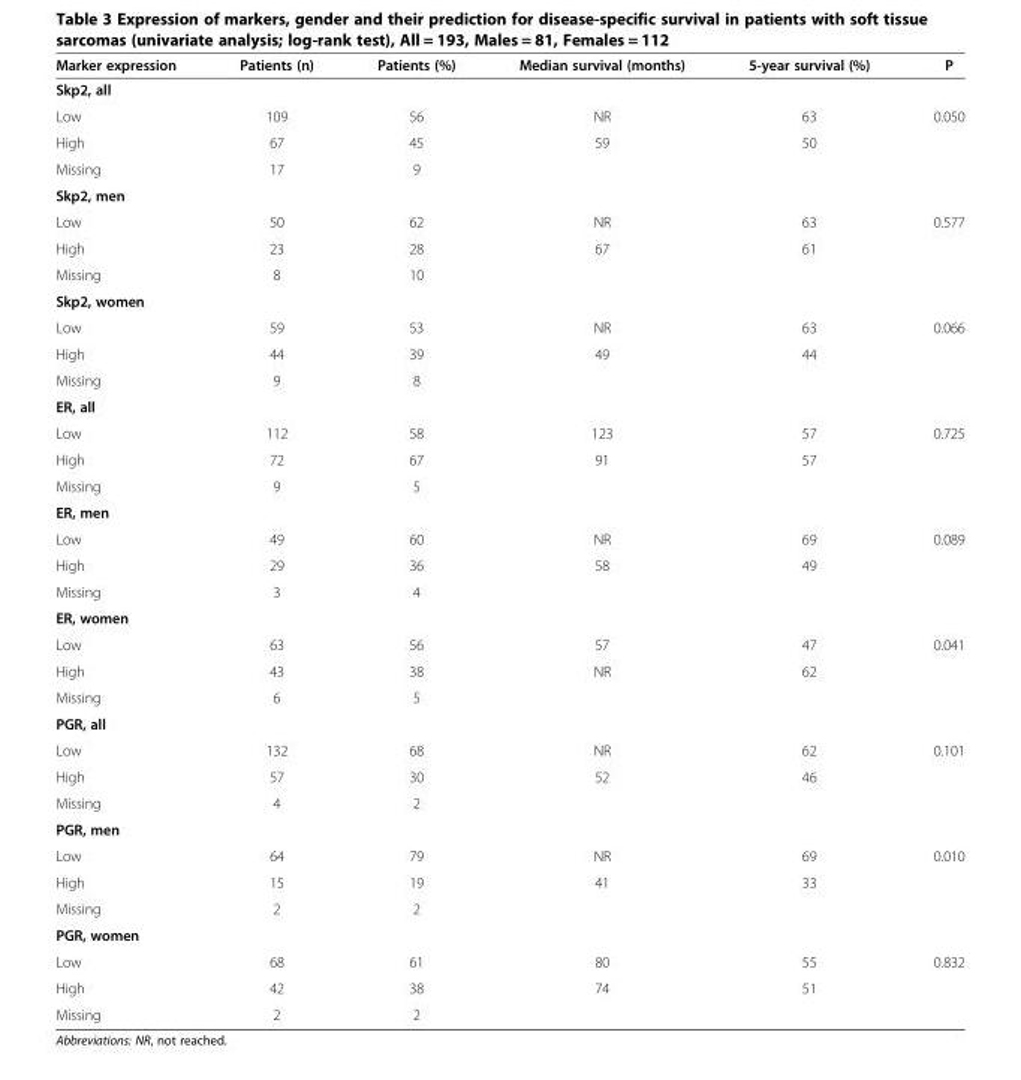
<table><thead><tr><td>Marker expression</td><td>Patients (n)</td><td>Patients (%)</td><td>Median survival (months)</td><td>5-year survival (%)</td><td>P</td></tr></thead><tbody><tr><td colspan="6">Skp2, all</td></tr><tr><td>Low</td><td>109</td><td>56</td><td>NR</td><td>63</td><td>0.050</td></tr><tr><td>High</td><td>67</td><td>45</td><td>59</td><td>50</td><td></td></tr><tr><td>Missing</td><td>17</td><td>9</td><td></td><td></td><td></td></tr><tr><td colspan="6">Skp2, men</td></tr><tr><td>Low</td><td>50</td><td>62</td><td>NR</td><td>63</td><td>0.577</td></tr><tr><td>High</td><td>23</td><td>28</td><td>67</td><td>61</td><td></td></tr><tr><td>Missing</td><td>8</td><td>10</td><td></td><td></td><td></td></tr><tr><td colspan="6">Skp2, women</td></tr><tr><td>Low</td><td>59</td><td>53</td><td>NR</td><td>63</td><td>0.066</td></tr><tr><td>High</td><td>44</td><td>39</td><td>49</td><td>44</td><td></td></tr><tr><td>Missing</td><td>9</td><td>8</td><td></td><td></td><td></td></tr><tr><td colspan="6">ER, all</td></tr><tr><td>Low</td><td>112</td><td>58</td><td>123</td><td>57</td><td>0.725</td></tr><tr><td>High</td><td>72</td><td>67</td><td>91</td><td>57</td><td></td></tr><tr><td>Missing</td><td>9</td><td>5</td><td></td><td></td><td></td></tr><tr><td colspan="6">ER, men</td></tr><tr><td>Low</td><td>49</td><td>60</td><td>NR</td><td>69</td><td>0.089</td></tr><tr><td>High</td><td>29</td><td>36</td><td>58</td><td>49</td><td></td></tr><tr><td>Missing</td><td>3</td><td>4</td><td></td><td></td><td></td></tr><tr><td colspan="6">ER, women</td></tr><tr><td>Low</td><td>63</td><td>56</td><td>57</td><td>47</td><td>0.041</td></tr><tr><td>High</td><td>43</td><td>38</td><td>NR</td><td>62</td><td></td></tr><tr><td>Missing</td><td>6</td><td>5</td><td></td><td></td><td></td></tr><tr><td colspan="6">PGR, all</td></tr><tr><td>Low</td><td>132</td><td>68</td><td>NR</td><td>62</td><td>0.101</td></tr><tr><td>High</td><td>57</td><td>30</td><td>52</td><td>46</td><td></td></tr><tr><td>Missing</td><td>4</td><td>2</td><td></td><td></td><td></td></tr><tr><td colspan="6">PGR, men</td></tr><tr><td>Low</td><td>64</td><td>79</td><td>NR</td><td>69</td><td>0.010</td></tr><tr><td>High</td><td>15</td><td>19</td><td>41</td><td>33</td><td></td></tr><tr><td>Missing</td><td>2</td><td>2</td><td></td><td></td><td></td></tr><tr><td colspan="6">PGR, women</td></tr><tr><td>Low</td><td>68</td><td>61</td><td>80</td><td>55</td><td>0.832</td></tr><tr><td>High</td><td>42</td><td>38</td><td>74</td><td>51</td><td></td></tr><tr><td>Missing</td><td>2</td><td>2</td><td></td><td></td><td></td></tr></tbody></table>